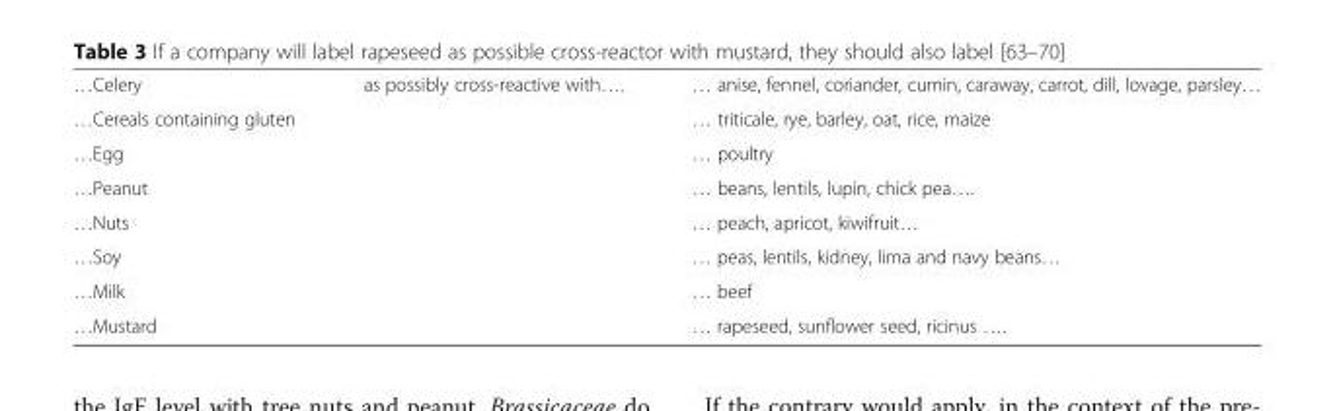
<table><tbody><tr><td>…Celery</td><td rowspan="8">as possibly cross-reactive with….</td><td>… anise, fennel, coriander, cumin, caraway, carrot, dill, lovage, parsley…</td></tr><tr><td>…Cereals containing gluten</td><td>… triticale, rye, barley, oat, rice, maize</td></tr><tr><td>…Egg</td><td>… poultry</td></tr><tr><td>…Peanut</td><td>… beans, lentils, lupin, chick pea….</td></tr><tr><td>…Nuts</td><td>… peach, apricot, kiwifruit…</td></tr><tr><td>…Soy</td><td>… peas, lentils, kidney, lima and navy beans…</td></tr><tr><td>…Milk</td><td>… beef</td></tr><tr><td>…Mustard</td><td>… rapeseed, sunflower seed, ricinus ….</td></tr></tbody></table>